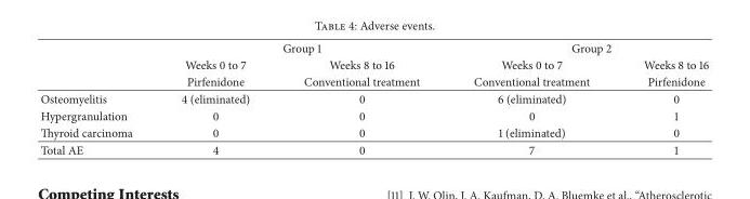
<table><thead><tr><td rowspan="3"></td><td colspan="2">Group 1</td><td colspan="2">Group 2</td></tr><tr><td rowspan="2">Weeks 0 to 7 Pirfenidone</td><td rowspan="2">Weeks 8 to 16 Conventional treatment</td><td rowspan="2">Weeks 0 to 7 Conventional treatment</td><td rowspan="2">Weeks 8 to 16 Pirfenidone</td></tr><tr></tr></thead><tbody><tr><td>Osteomyelitis</td><td>4 (eliminated)</td><td>0</td><td>6 (eliminated)</td><td>0</td></tr><tr><td>Hypergranulation</td><td>0</td><td>0</td><td>0</td><td>1</td></tr><tr><td>Thyroid carcinoma</td><td>0</td><td>0</td><td>1 (eliminated)</td><td>0</td></tr><tr><td>Total AE</td><td>4</td><td>0</td><td>7</td><td>1</td></tr></tbody></table>